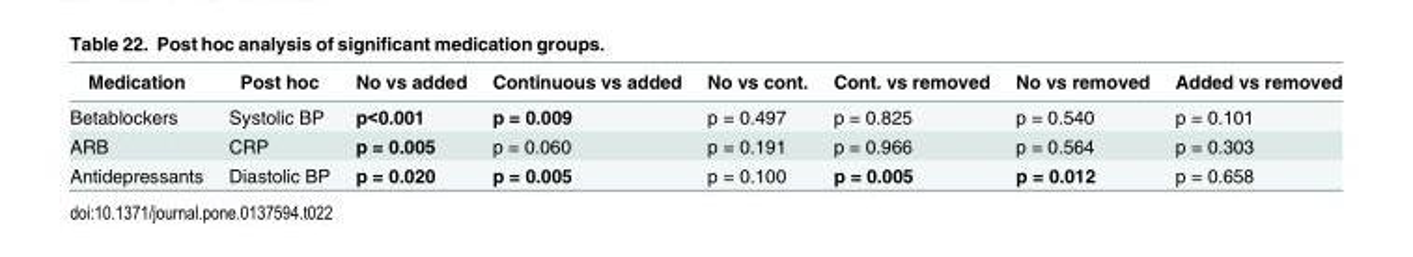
<table><thead><tr><td>Medication</td><td>Post hoc</td><td>No vs added</td><td>Continuous vs added</td><td>No vs cont.</td><td>Cont. vs removed</td><td>No vs removed</td><td>Added vs removed</td></tr></thead><tbody><tr><td>Betablockers</td><td>Systolic BP</td><td>p&lt;0.001</td><td>p = 0.009</td><td>p = 0.497</td><td>p = 0.825</td><td>p = 0.540</td><td>p = 0.101</td></tr><tr><td>ARB</td><td>CRP</td><td>p = 0.005</td><td>p = 0.060</td><td>p = 0.191</td><td>p = 0.966</td><td>p = 0.564</td><td>p = 0.303</td></tr><tr><td>Antidepressants</td><td>Diastolic BP</td><td>p = 0.020</td><td>p = 0.005</td><td>p = 0.100</td><td>p = 0.005</td><td>p = 0.012</td><td>p = 0.658</td></tr></tbody></table>